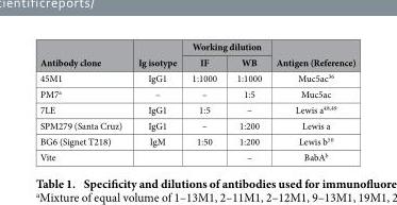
<table><thead><tr><td rowspan="2">Antibody clone</td><td rowspan="2">Ig isotype</td><td colspan="2">Working dilution</td><td rowspan="2">Antigen (Reference)</td></tr><tr><td>IF</td><td>WB</td></tr></thead><tbody><tr><td>45M1</td><td>IgG1</td><td>1:1000</td><td>1:1000</td><td>Muc5ac<sup>36</sup></td></tr><tr><td>PM7<sup>a</sup></td><td>–</td><td>–</td><td>1:5</td><td>Muc5ac</td></tr><tr><td>7LE</td><td>IgG1</td><td>1:5</td><td>–</td><td>Lewis a<sup>48</sup>,<sup>49</sup></td></tr><tr><td>SPM279 (Santa Cruz)</td><td>IgG1</td><td>–</td><td>1:200</td><td>Lewis a</td></tr><tr><td>BG6 (Signet T218)</td><td>IgM</td><td>1:50</td><td>1:200</td><td>Lewis b<sup>50</sup></td></tr><tr><td>Vite</td><td></td><td></td><td>–</td><td>BabA<sup>b</sup></td></tr></tbody></table>